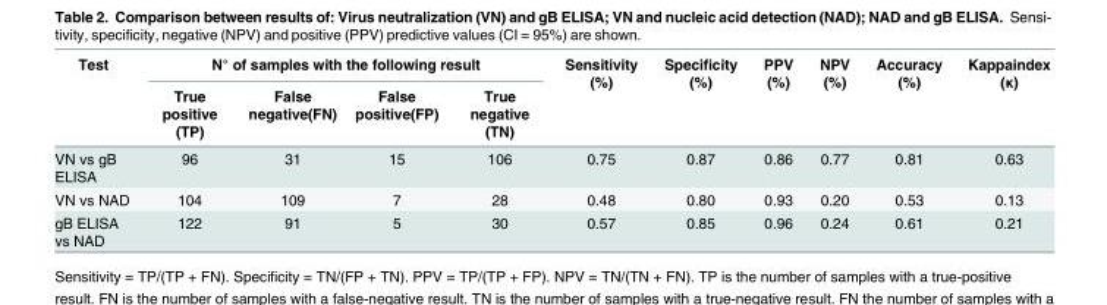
<table><thead><tr><td rowspan="2">Test</td><td colspan="4">N° of samples with the following result</td><td rowspan="2">Sensitivity (%)</td><td rowspan="2">Specificity (%)</td><td rowspan="2">PPV (%)</td><td rowspan="2">NPV (%)</td><td rowspan="2">Accuracy (%)</td><td rowspan="2">Kappaindex (κ)</td></tr><tr><td>True positive (TP)</td><td>False negative(FN)</td><td>False positive(FP)</td><td>True negative (TN)</td></tr></thead><tbody><tr><td>VN vs gB ELISA</td><td>96</td><td>31</td><td>15</td><td>106</td><td>0.75</td><td>0.87</td><td>0.86</td><td>0.77</td><td>0.81</td><td>0.63</td></tr><tr><td>VN vs NAD</td><td>104</td><td>109</td><td>7</td><td>28</td><td>0.48</td><td>0.80</td><td>0.93</td><td>0.20</td><td>0.53</td><td>0.13</td></tr><tr><td>gB ELISA vs NAD</td><td>122</td><td>91</td><td>5</td><td>30</td><td>0.57</td><td>0.85</td><td>0.96</td><td>0.24</td><td>0.61</td><td>0.21</td></tr></tbody></table>